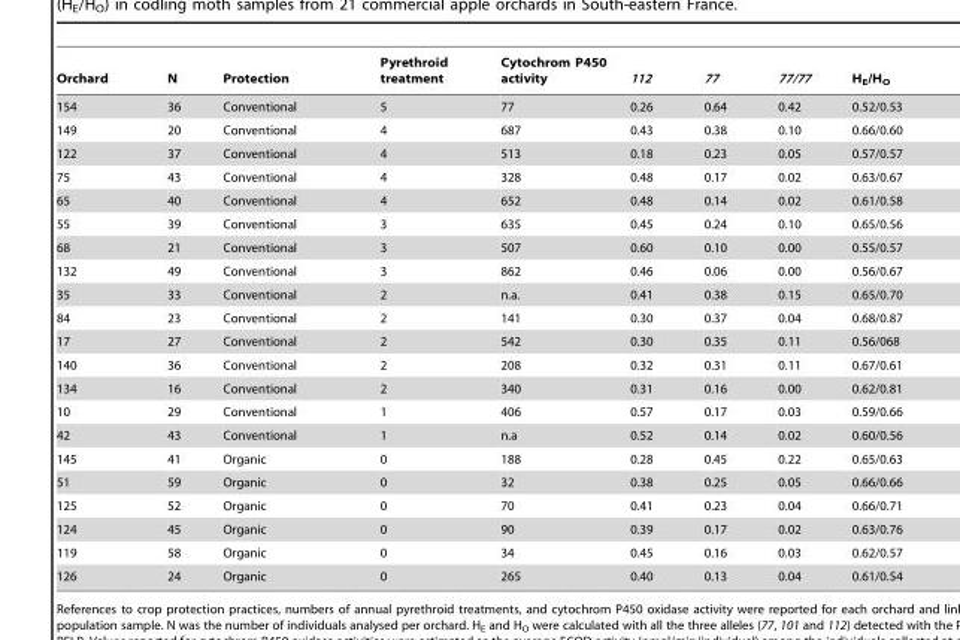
<table><thead><tr><td>Orchard</td><td>N</td><td>Protection</td><td>Pyrethroid treatment</td><td>Cytochrom P450 activity</td><td>112</td><td>77</td><td>77/77</td><td>H<sub>E</sub>/H<sub>O</sub></td></tr></thead><tbody><tr><td>154</td><td>36</td><td>Conventional</td><td>5</td><td>77</td><td>0.26</td><td>0.64</td><td>0.42</td><td>0.52/0.53</td></tr><tr><td>149</td><td>20</td><td>Conventional</td><td>4</td><td>687</td><td>0.43</td><td>0.38</td><td>0.10</td><td>0.66/0.60</td></tr><tr><td>122</td><td>37</td><td>Conventional</td><td>4</td><td>513</td><td>0.18</td><td>0.23</td><td>0.05</td><td>0.57/0.57</td></tr><tr><td>75</td><td>43</td><td>Conventional</td><td>4</td><td>328</td><td>0.48</td><td>0.17</td><td>0.02</td><td>0.63/0.67</td></tr><tr><td>65</td><td>40</td><td>Conventional</td><td>4</td><td>652</td><td>0.48</td><td>0.14</td><td>0.02</td><td>0.61/0.58</td></tr><tr><td>55</td><td>39</td><td>Conventional</td><td>3</td><td>635</td><td>0.45</td><td>0.24</td><td>0.10</td><td>0.65/0.56</td></tr><tr><td>68</td><td>21</td><td>Conventional</td><td>3</td><td>507</td><td>0.60</td><td>0.10</td><td>0.00</td><td>0.55/0.57</td></tr><tr><td>132</td><td>49</td><td>Conventional</td><td>3</td><td>862</td><td>0.46</td><td>0.06</td><td>0.00</td><td>0.56/0.67</td></tr><tr><td>35</td><td>33</td><td>Conventional</td><td>2</td><td>n.a.</td><td>0.41</td><td>0.38</td><td>0.15</td><td>0.65/0.70</td></tr><tr><td>84</td><td>23</td><td>Conventional</td><td>2</td><td>141</td><td>0.30</td><td>0.37</td><td>0.04</td><td>0.68/0.87</td></tr><tr><td>17</td><td>27</td><td>Conventional</td><td>2</td><td>542</td><td>0.30</td><td>0.35</td><td>0.11</td><td>0.56/068</td></tr><tr><td>140</td><td>36</td><td>Conventional</td><td>2</td><td>208</td><td>0.32</td><td>0.31</td><td>0.11</td><td>0.67/0.61</td></tr><tr><td>134</td><td>16</td><td>Conventional</td><td>2</td><td>340</td><td>0.31</td><td>0.16</td><td>0.00</td><td>0.62/0.81</td></tr><tr><td>10</td><td>29</td><td>Conventional</td><td>1</td><td>406</td><td>0.57</td><td>0.17</td><td>0.03</td><td>0.59/0.66</td></tr><tr><td>42</td><td>43</td><td>Conventional</td><td>1</td><td>n.a</td><td>0.52</td><td>0.14</td><td>0.02</td><td>0.60/0.56</td></tr><tr><td>145</td><td>41</td><td>Organic</td><td>0</td><td>188</td><td>0.28</td><td>0.45</td><td>0.22</td><td>0.65/0.63</td></tr><tr><td>51</td><td>59</td><td>Organic</td><td>0</td><td>32</td><td>0.38</td><td>0.25</td><td>0.05</td><td>0.66/0.66</td></tr><tr><td>125</td><td>52</td><td>Organic</td><td>0</td><td>70</td><td>0.41</td><td>0.23</td><td>0.04</td><td>0.66/0.71</td></tr><tr><td>124</td><td>45</td><td>Organic</td><td>0</td><td>90</td><td>0.39</td><td>0.17</td><td>0.02</td><td>0.63/0.76</td></tr><tr><td>119</td><td>58</td><td>Organic</td><td>0</td><td>34</td><td>0.45</td><td>0.16</td><td>0.03</td><td>0.62/0.57</td></tr><tr><td>126</td><td>24</td><td>Organic</td><td>0</td><td>265</td><td>0.40</td><td>0.13</td><td>0.04</td><td>0.61/0.54</td></tr></tbody></table>